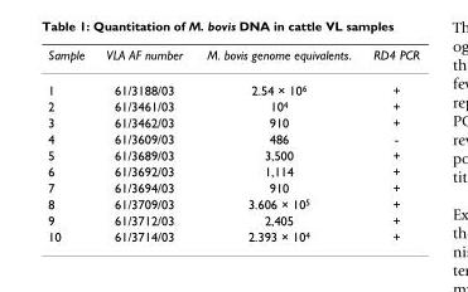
<table><thead><tr><td>Sample</td><td>VLA AF number</td><td>M. bovis genome equivalents.</td><td>RD4 PCR</td></tr></thead><tbody><tr><td>1</td><td>61/3188/03</td><td>2.54 × 10<sup>6</sup></td><td>+</td></tr><tr><td>2</td><td>61/3461/03</td><td>10<sup>4</sup></td><td>+</td></tr><tr><td>3</td><td>61/3462/03</td><td>910</td><td>+</td></tr><tr><td>4</td><td>61/3609/03</td><td>486</td><td>-</td></tr><tr><td>5</td><td>61/3689/03</td><td>3,500</td><td>+</td></tr><tr><td>6</td><td>61/3692/03</td><td>1,114</td><td>+</td></tr><tr><td>7</td><td>61/3694/03</td><td>910</td><td>+</td></tr><tr><td>8</td><td>61/3709/03</td><td>3.606 × 10<sup>5</sup></td><td>+</td></tr><tr><td>9</td><td>61/3712/03</td><td>2,405</td><td>+</td></tr><tr><td>10</td><td>61/3714/03</td><td>2.393 × 10<sup>4</sup></td><td>+</td></tr></tbody></table>